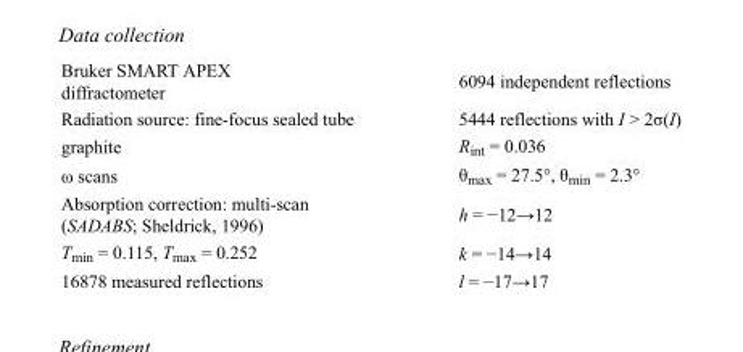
<table><tbody><tr><td>Bruker SMART APEX diffractometer</td><td>6094 independent reflections</td></tr><tr><td>Radiation source: fine-focus sealed tube</td><td>5444 reflections with I &gt; 2σ(I)</td></tr><tr><td>graphite</td><td>R<sub>int</sub> = 0.036</td></tr><tr><td>ω scans</td><td>θ<sub>max</sub> = 27.5°, θ<sub>min</sub> = 2.3°</td></tr><tr><td>Absorption correction: multi-scan (SADABS; Sheldrick, 1996)</td><td>h = −12→12</td></tr><tr><td>T<sub>min</sub> = 0.115, T<sub>max</sub> = 0.252</td><td>k = −14→14</td></tr><tr><td>16878 measured reflections</td><td>l = −17→17</td></tr></tbody></table>